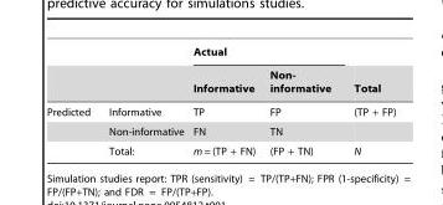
<table><thead><tr><td rowspan="2"></td><td rowspan="2"></td><td colspan="2">Actual</td><td rowspan="2">Total</td></tr><tr><td>Informative</td><td>Non- informative</td></tr></thead><tbody><tr><td rowspan="3">Predicted</td><td>Informative</td><td>TP</td><td>FP</td><td>(TP + FP)</td></tr><tr><td>Non-informative</td><td>FN</td><td>TN</td><td></td></tr><tr><td>Total:</td><td>m = (TP + FN)</td><td>(FP + TN)</td><td>N</td></tr></tbody></table>